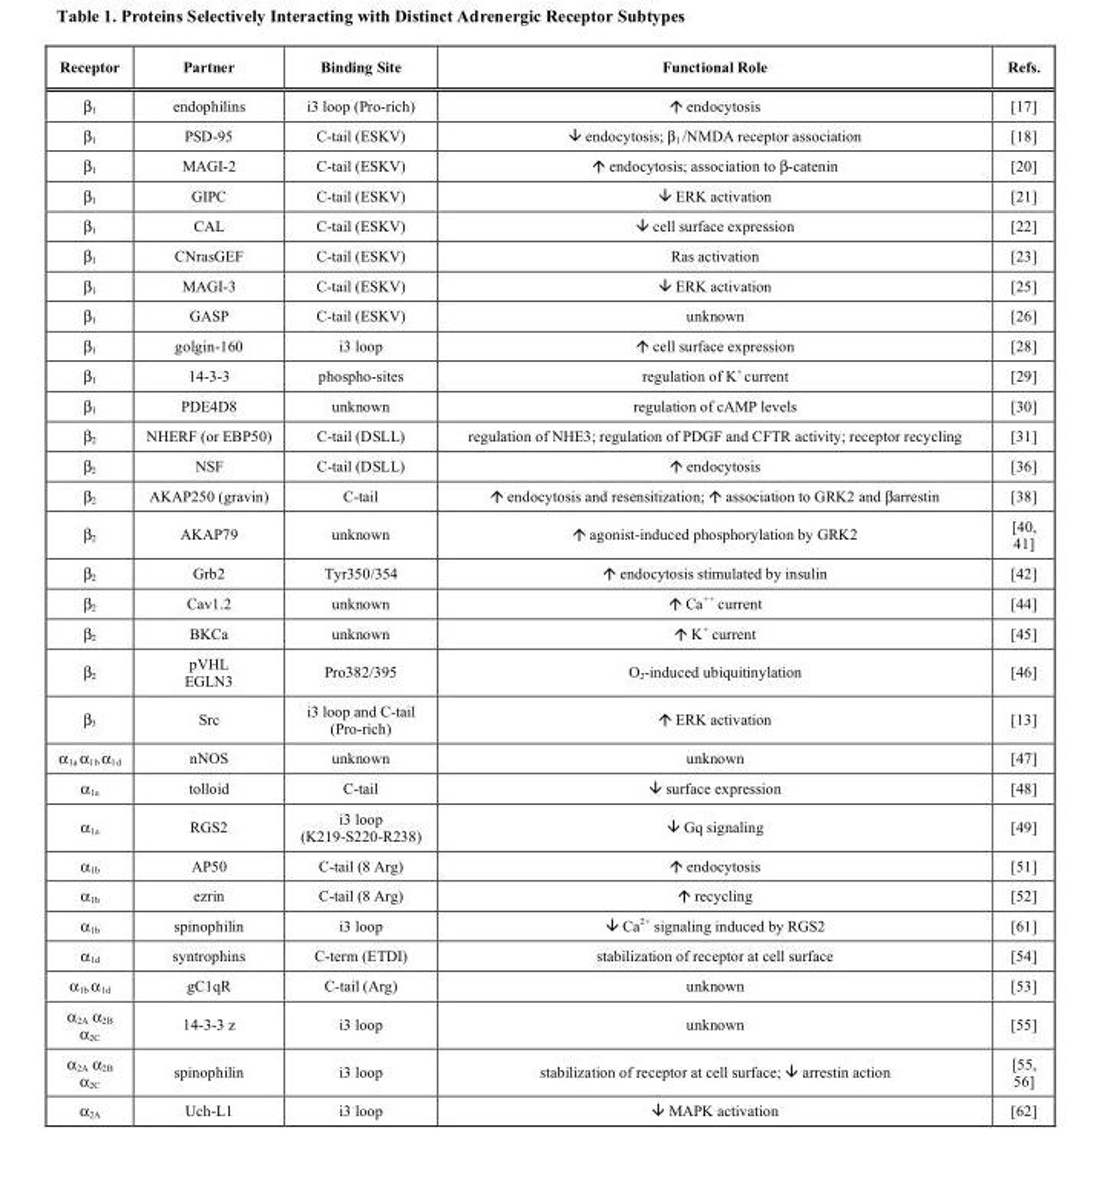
<table><thead><tr><td>Receptor</td><td>Partner</td><td>Binding Site</td><td>Functional Role</td><td>Refs.</td></tr></thead><tbody><tr><td>β<sub>1</sub></td><td>endophilins</td><td>i3 loop (Pro-rich)</td><td>↑ endocytosis</td><td>[17]</td></tr><tr><td>β<sub>1</sub></td><td>PSD-95</td><td>C-tail (ESKV)</td><td>↓ endocytosis; β<sub>1</sub> /NMDA receptor association</td><td>[18]</td></tr><tr><td>β<sub>1</sub></td><td>MAGI-2</td><td>C-tail (ESKV)</td><td>↑ endocytosis; association to β-catenin</td><td>[20]</td></tr><tr><td>β<sub>1</sub></td><td>GIPC</td><td>C-tail (ESKV)</td><td>↓ ERK activation</td><td>[21]</td></tr><tr><td>β<sub>1</sub></td><td>CAL</td><td>C-tail (ESKV)</td><td>↓ cell surface expression</td><td>[22]</td></tr><tr><td>β<sub>1</sub></td><td>CNrasGEF</td><td>C-tail (ESKV)</td><td>Ras activation</td><td>[23]</td></tr><tr><td>β<sub>1</sub></td><td>MAGI-3</td><td>C-tail (ESKV)</td><td>↓ ERK activation</td><td>[25]</td></tr><tr><td>β<sub>1</sub></td><td>GASP</td><td>C-tail (ESKV)</td><td>unknown</td><td>[26]</td></tr><tr><td>β<sub>1</sub></td><td>golgin-160</td><td>i3 loop</td><td>↑ cell surface expression</td><td>[28]</td></tr><tr><td>β<sub>1</sub></td><td>14-3-3</td><td>phospho-sites</td><td>regulation of K<sup>+</sup> current</td><td>[29]</td></tr><tr><td>β<sub>1</sub></td><td>PDE4D8</td><td>unknown</td><td>regulation of cAMP levels</td><td>[30]</td></tr><tr><td>β<sub>2</sub></td><td>NHERF (or EBP50)</td><td>C-tail (DSLL)</td><td>regulation of NHE3; regulation of PDGF and CFTR activity; receptor recycling</td><td>[31]</td></tr><tr><td>β<sub>2</sub></td><td>NSF</td><td>C-tail (DSLL)</td><td>↑ endocytosis</td><td>[36]</td></tr><tr><td>β<sub>2</sub></td><td>AKAP250 (gravin)</td><td>C-tail</td><td> endocytosis and resensitization;  association to GRK2 and βarrestin</td><td>[38]</td></tr><tr><td>β<sub>2</sub></td><td>AKAP79</td><td>unknown</td><td>↑ agonist-induced phosphorylation by GRK2</td><td>[40, 41]</td></tr><tr><td>β<sub>2</sub></td><td>Grb2</td><td>Tyr350/354</td><td>↑ endocytosis stimulated by insulin</td><td>[42]</td></tr><tr><td>β<sub>2</sub></td><td>Cav1.2</td><td>unknown</td><td>↑ Ca<sup>++</sup> current</td><td>[44]</td></tr><tr><td>β<sub>2</sub></td><td>BKCa</td><td>unknown</td><td>↑ K<sup>+</sup> current</td><td>[45]</td></tr><tr><td>β<sub>2</sub></td><td>pVHL EGLN3</td><td>Pro382/395</td><td>O2-induced ubiquitinylation</td><td>[46]</td></tr><tr><td>β3</td><td>Src</td><td>i3 loop and C-tail (Pro-rich)</td><td>↑ ERK activation</td><td>[13]</td></tr><tr><td>α<sub>1a</sub> α<sub>1b</sub> α<sub>1d</sub></td><td>nNOS</td><td>unknown</td><td>unknown</td><td>[47]</td></tr><tr><td>α<sub>1a</sub></td><td>tolloid</td><td>C-tail</td><td>↓ surface expression</td><td>[48]</td></tr><tr><td>α<sub>1a</sub></td><td>RGS2</td><td>i3 loop (K219-S220-R238)</td><td>↓ Gq signaling</td><td>[49]</td></tr><tr><td>α<sub>1b</sub></td><td>AP50</td><td>C-tail (8 Arg)</td><td>↑ endocytosis</td><td>[51]</td></tr><tr><td>α<sub>1b</sub></td><td>ezrin</td><td>C-tail (8 Arg)</td><td>↑ recycling</td><td>[52]</td></tr><tr><td>α<sub>1b</sub></td><td>spinophilin</td><td>i3 loop</td><td>↓ Ca2<sup>+</sup> signaling induced by RGS2</td><td>[61]</td></tr><tr><td>α<sub>1d</sub></td><td>syntrophins</td><td>C-term (ETDI)</td><td>stabilization of receptor at cell surface</td><td>[54]</td></tr><tr><td>α<sub>1b</sub> α<sub>1d</sub></td><td>gC1qR</td><td>C-tail (Arg)</td><td>unknown</td><td>[53]</td></tr><tr><td>α<sub>2A</sub> α<sub>2B</sub> α<sub>2C</sub></td><td>14-3-3 z</td><td>i3 loop</td><td>unknown</td><td>[55]</td></tr><tr><td>α<sub>2A</sub> α<sub>2B</sub> α<sub>2C</sub></td><td>spinophilin</td><td>i3 loop</td><td>stabilization of receptor at cell surface; ↓ arrestin action</td><td>[55, 56]</td></tr><tr><td>α<sub>2A</sub></td><td>Uch-L1</td><td>i3 loop</td><td>↓ MAPK activation</td><td>[62]</td></tr></tbody></table>